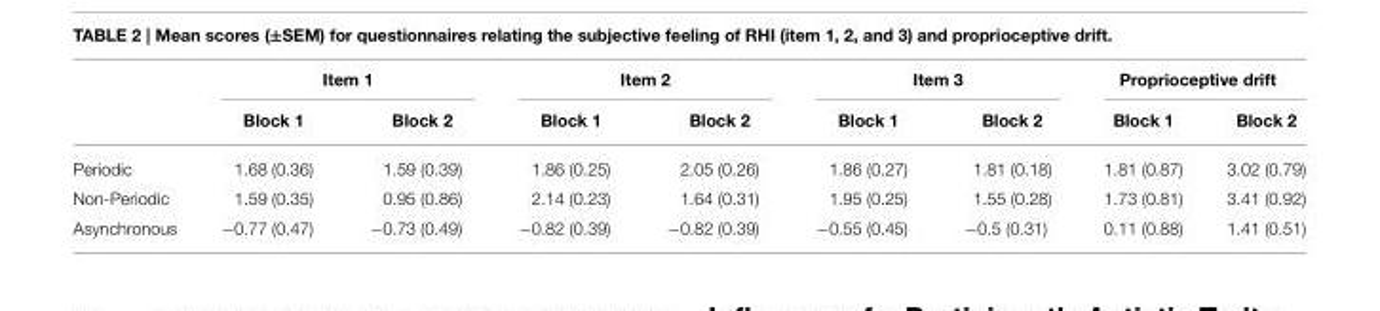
<table><thead><tr><td rowspan="2"></td><td colspan="2">Item 1</td><td colspan="2">Item 2</td><td colspan="2">Item 3</td><td colspan="2">Proprioceptive drift</td></tr><tr><td>Block 1</td><td>Block 2</td><td>Block 1</td><td>Block 2</td><td>Block 1</td><td>Block 2</td><td>Block 1</td><td>Block 2</td></tr></thead><tbody><tr><td>Periodic</td><td>1.68 (0.36)</td><td>1.59 (0.39)</td><td>1.86 (0.25)</td><td>2.05 (0.26)</td><td>1.86 (0.27)</td><td>1.81 (0.18)</td><td>1.81 (0.87)</td><td>3.02 (0.79)</td></tr><tr><td>Non-Periodic</td><td>1.59 (0.35)</td><td>0.95 (0.86)</td><td>2.14 (0.23)</td><td>1.64 (0.31)</td><td>1.95 (0.25)</td><td>1.55 (0.28)</td><td>1.73 (0.81)</td><td>3.41 (0.92)</td></tr><tr><td>Asynchronous</td><td>−0.77 (0.47)</td><td>−0.73 (0.49)</td><td>−0.82 (0.39)</td><td>−0.82 (0.39)</td><td>−0.55 (0.45)</td><td>−0.5 (0.31)</td><td>0.11 (0.88)</td><td>1.41 (0.51)</td></tr></tbody></table>